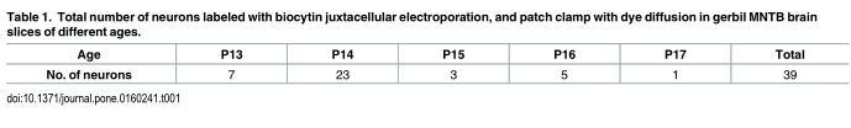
<table><thead><tr><td>Age</td><td>P13</td><td>P14</td><td>P15</td><td>P16</td><td>P17</td><td>Total</td></tr></thead><tbody><tr><td>No. of neurons</td><td>7</td><td>23</td><td>3</td><td>5</td><td>1</td><td>39</td></tr></tbody></table>